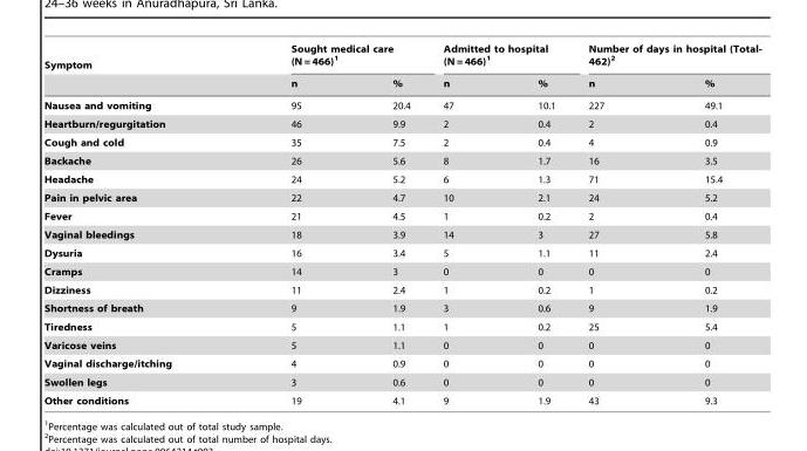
<table><thead><tr><td rowspan="2">Symptom</td><td colspan="2">Sought medical care (N = 466)<sup>1</sup></td><td colspan="2">Admitted to hospital (N = 466)<sup>1</sup></td><td colspan="2">Number of days in hospital (Total- 462)<sup>2</sup></td></tr><tr><td>n</td><td>%</td><td>n</td><td>%</td><td>n</td><td>%</td></tr></thead><tbody><tr><td>Nausea and vomiting</td><td>95</td><td>20.4</td><td>47</td><td>10.1</td><td>227</td><td>49.1</td></tr><tr><td>Heartburn/regurgitation</td><td>46</td><td>9.9</td><td>2</td><td>0.4</td><td>2</td><td>0.4</td></tr><tr><td>Cough and cold</td><td>35</td><td>7.5</td><td>2</td><td>0.4</td><td>4</td><td>0.9</td></tr><tr><td>Backache</td><td>26</td><td>5.6</td><td>8</td><td>1.7</td><td>16</td><td>3.5</td></tr><tr><td>Headache</td><td>24</td><td>5.2</td><td>6</td><td>1.3</td><td>71</td><td>15.4</td></tr><tr><td>Pain in pelvic area</td><td>22</td><td>4.7</td><td>10</td><td>2.1</td><td>24</td><td>5.2</td></tr><tr><td>Fever</td><td>21</td><td>4.5</td><td>1</td><td>0.2</td><td>2</td><td>0.4</td></tr><tr><td>Vaginal bleedings</td><td>18</td><td>3.9</td><td>14</td><td>3</td><td>27</td><td>5.8</td></tr><tr><td>Dysuria</td><td>16</td><td>3.4</td><td>5</td><td>1.1</td><td>11</td><td>2.4</td></tr><tr><td>Cramps</td><td>14</td><td>3</td><td>0</td><td>0</td><td>0</td><td>0</td></tr><tr><td>Dizziness</td><td>11</td><td>2.4</td><td>1</td><td>0.2</td><td>1</td><td>0.2</td></tr><tr><td>Shortness of breath</td><td>9</td><td>1.9</td><td>3</td><td>0.6</td><td>9</td><td>1.9</td></tr><tr><td>Tiredness</td><td>5</td><td>1.1</td><td>1</td><td>0.2</td><td>25</td><td>5.4</td></tr><tr><td>Varicose veins</td><td>5</td><td>1.1</td><td>0</td><td>0</td><td>0</td><td>0</td></tr><tr><td>Vaginal discharge/itching</td><td>4</td><td>0.9</td><td>0</td><td>0</td><td>0</td><td>0</td></tr><tr><td>Swollen legs</td><td>3</td><td>0.6</td><td>0</td><td>0</td><td>0</td><td>0</td></tr><tr><td>Other conditions</td><td>19</td><td>4.1</td><td>9</td><td>1.9</td><td>43</td><td>9.3</td></tr></tbody></table>